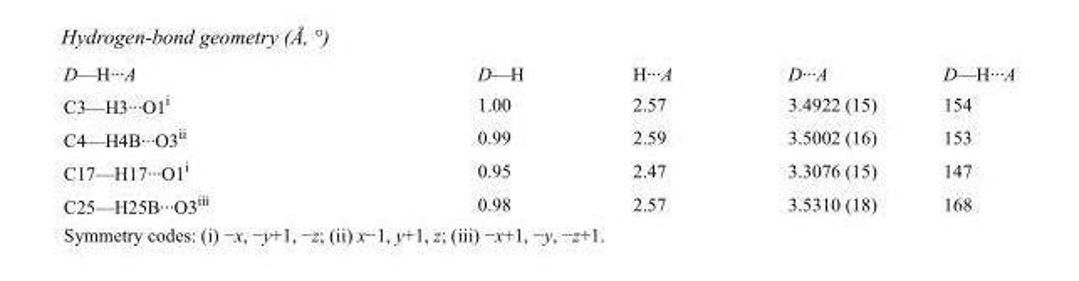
<table><tbody><tr><td>D—H···A</td><td>D—H</td><td>H···A</td><td>D···A</td><td>D—H···A</td></tr><tr><td>C3—H3···O1<sup>i</sup></td><td>1.00</td><td>2.57</td><td>3.4922 (15)</td><td>154</td></tr><tr><td>C4—H4B···O3<sup>ii</sup></td><td>0.99</td><td>2.59</td><td>3.5002 (16)</td><td>153</td></tr><tr><td>C17—H17···O1<sup>i</sup></td><td>0.95</td><td>2.47</td><td>3.3076 (15)</td><td>147</td></tr><tr><td>C25—H25B···O3<sup>iii</sup></td><td>0.98</td><td>2.57</td><td>3.5310 (18)</td><td>168</td></tr></tbody></table>